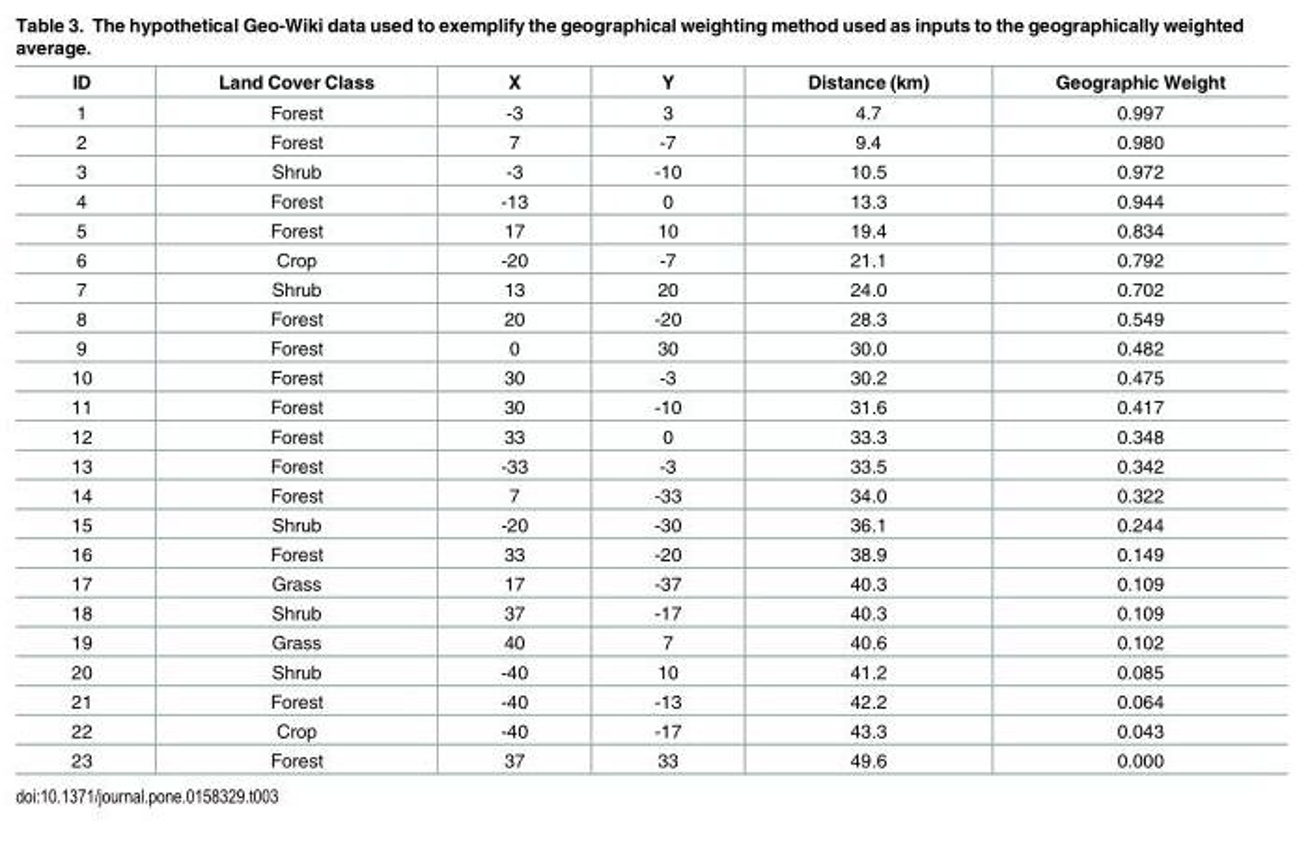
<table><thead><tr><td>ID</td><td>Land Cover Class</td><td>X</td><td>Y</td><td>Distance (km)</td><td>Geographic Weight</td></tr></thead><tbody><tr><td>1</td><td>Forest</td><td>-3</td><td>3</td><td>4.7</td><td>0.997</td></tr><tr><td>2</td><td>Forest</td><td>7</td><td>-7</td><td>9.4</td><td>0.980</td></tr><tr><td>3</td><td>Shrub</td><td>-3</td><td>-10</td><td>10.5</td><td>0.972</td></tr><tr><td>4</td><td>Forest</td><td>-13</td><td>0</td><td>13.3</td><td>0.944</td></tr><tr><td>5</td><td>Forest</td><td>17</td><td>10</td><td>19.4</td><td>0.834</td></tr><tr><td>6</td><td>Crop</td><td>-20</td><td>-7</td><td>21.1</td><td>0.792</td></tr><tr><td>7</td><td>Shrub</td><td>13</td><td>20</td><td>24.0</td><td>0.702</td></tr><tr><td>8</td><td>Forest</td><td>20</td><td>-20</td><td>28.3</td><td>0.549</td></tr><tr><td>9</td><td>Forest</td><td>0</td><td>30</td><td>30.0</td><td>0.482</td></tr><tr><td>10</td><td>Forest</td><td>30</td><td>-3</td><td>30.2</td><td>0.475</td></tr><tr><td>11</td><td>Forest</td><td>30</td><td>-10</td><td>31.6</td><td>0.417</td></tr><tr><td>12</td><td>Forest</td><td>33</td><td>0</td><td>33.3</td><td>0.348</td></tr><tr><td>13</td><td>Forest</td><td>-33</td><td>-3</td><td>33.5</td><td>0.342</td></tr><tr><td>14</td><td>Forest</td><td>7</td><td>-33</td><td>34.0</td><td>0.322</td></tr><tr><td>15</td><td>Shrub</td><td>-20</td><td>-30</td><td>36.1</td><td>0.244</td></tr><tr><td>16</td><td>Forest</td><td>33</td><td>-20</td><td>38.9</td><td>0.149</td></tr><tr><td>17</td><td>Grass</td><td>17</td><td>-37</td><td>40.3</td><td>0.109</td></tr><tr><td>18</td><td>Shrub</td><td>37</td><td>-17</td><td>40.3</td><td>0.109</td></tr><tr><td>19</td><td>Grass</td><td>40</td><td>7</td><td>40.6</td><td>0.102</td></tr><tr><td>20</td><td>Shrub</td><td>-40</td><td>10</td><td>41.2</td><td>0.085</td></tr><tr><td>21</td><td>Forest</td><td>-40</td><td>-13</td><td>42.2</td><td>0.064</td></tr><tr><td>22</td><td>Crop</td><td>-40</td><td>-17</td><td>43.3</td><td>0.043</td></tr><tr><td>23</td><td>Forest</td><td>37</td><td>33</td><td>49.6</td><td>0.000</td></tr></tbody></table>